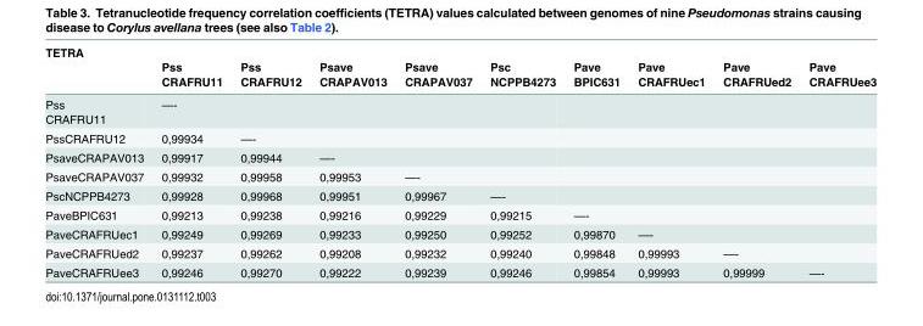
<table><thead><tr><td rowspan="2">TETRA</td><td rowspan="2">Pss CRAFRU11</td><td rowspan="2">Pss CRAFRU12</td><td rowspan="2">Psave CRAPAV013</td><td rowspan="2">Psave CRAPAV037</td><td rowspan="2">Psc NCPPB4273</td><td rowspan="2">Pave BPIC631</td><td rowspan="2">Pave CRAFRUec1</td><td rowspan="2">Pave CRAFRUed2</td><td rowspan="2">Pave CRAFRUee3</td></tr><tr></tr></thead><tbody><tr><td>Pss CRAFRU11</td><td>—-</td><td></td><td></td><td></td><td></td><td></td><td></td><td></td><td></td></tr><tr><td>PssCRAFRU12</td><td>0,99934</td><td>—-</td><td></td><td></td><td></td><td></td><td></td><td></td><td></td></tr><tr><td>PsaveCRAPAV013</td><td>0,99917</td><td>0,99944</td><td>—-</td><td></td><td></td><td></td><td></td><td></td><td></td></tr><tr><td>PsaveCRAPAV037</td><td>0,99932</td><td>0,99958</td><td>0,99953</td><td>—-</td><td></td><td></td><td></td><td></td><td></td></tr><tr><td>PscNCPPB4273</td><td>0,99928</td><td>0,99968</td><td>0,99951</td><td>0,99967</td><td>—-</td><td></td><td></td><td></td><td></td></tr><tr><td>PaveBPIC631</td><td>0,99213</td><td>0,99238</td><td>0,99216</td><td>0,99229</td><td>0,99215</td><td>—-</td><td></td><td></td><td></td></tr><tr><td>PaveCRAFRUec1</td><td>0,99249</td><td>0,99269</td><td>0,99233</td><td>0,99250</td><td>0,99252</td><td>0,99870</td><td>—-</td><td></td><td></td></tr><tr><td>PaveCRAFRUed2</td><td>0,99237</td><td>0,99262</td><td>0,99208</td><td>0,99232</td><td>0,99240</td><td>0,99848</td><td>0,99993</td><td>—-</td><td></td></tr><tr><td>PaveCRAFRUee3</td><td>0,99246</td><td>0,99270</td><td>0,99222</td><td>0,99239</td><td>0,99246</td><td>0,99854</td><td>0,99993</td><td>0,99999</td><td>—-</td></tr></tbody></table>